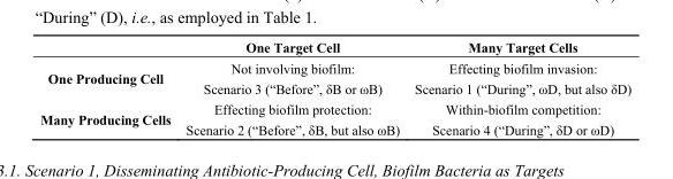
<table><thead><tr><td></td><td>One Target Cell</td><td>Many Target Cells</td></tr></thead><tbody><tr><td>One Producing Cell</td><td>Not involving biofilm: Scenario 3 (“Before”, δB or ωB)</td><td>Effecting biofilm invasion: Scenario 1 (“During”, ωD, but also δD)</td></tr><tr><td>Many Producing Cells</td><td>Effecting biofilm protection: Scenario 2 (“Before”, δB, but also ωB)</td><td>Within-biofilm competition: Scenario 4 (“During”, δD or ωD)</td></tr></tbody></table>